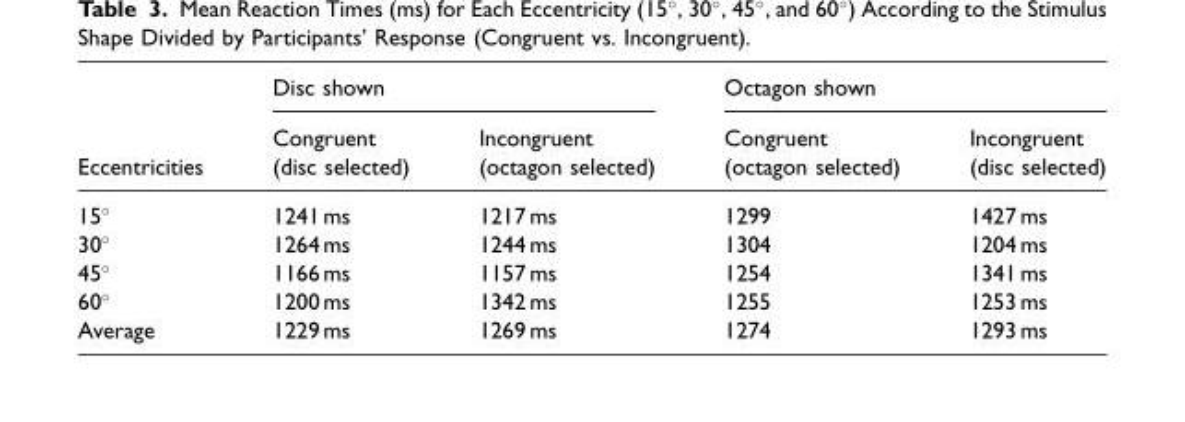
<table><thead><tr><td rowspan="2">Eccentricities</td><td colspan="2">Disc shown</td><td colspan="2">Octagon shown</td></tr><tr><td>Congruent (disc selected)</td><td>Incongruent (octagon selected)</td><td>Congruent (octagon selected)</td><td>Incongruent (disc selected)</td></tr></thead><tbody><tr><td>15°</td><td>1241 ms</td><td>1217 ms</td><td>1299</td><td>1427 ms</td></tr><tr><td>30°</td><td>1264 ms</td><td>1244 ms</td><td>1304</td><td>1204 ms</td></tr><tr><td>45°</td><td>1166 ms</td><td>1157 ms</td><td>1254</td><td>1341 ms</td></tr><tr><td>60°</td><td>1200 ms</td><td>1342 ms</td><td>1255</td><td>1253 ms</td></tr><tr><td>Average</td><td>1229 ms</td><td>1269 ms</td><td>1274</td><td>1293 ms</td></tr></tbody></table>